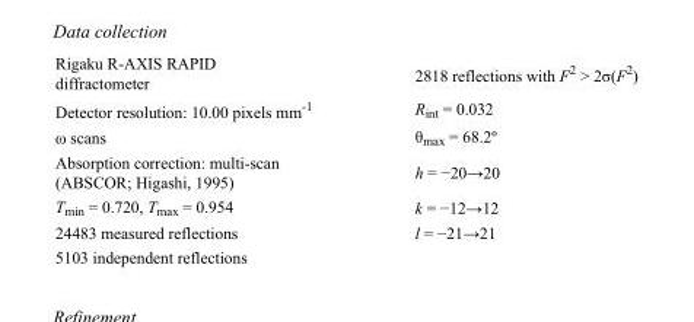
<table><tbody><tr><td>Rigaku R-AXIS RAPID diffractometer</td><td>2818 reflections with F<sup>2</sup> &gt; 2σ(F<sup>2</sup>)</td></tr><tr><td>Detector resolution: 10.00 pixels mm<sup>-1</sup></td><td>R<sub>int</sub> = 0.032</td></tr><tr><td>ω scans</td><td>θmax = 68.2º</td></tr><tr><td>Absorption correction: multi-scan (ABSCOR; Higashi, 1995)</td><td>h = −20→20</td></tr><tr><td>T<sub>min</sub> = 0.720, T<sub>max</sub> = 0.954</td><td>k = −12→12</td></tr><tr><td>24483 measured reflections</td><td>l = −21→21</td></tr><tr><td>5103 independent reflections</td><td></td></tr></tbody></table>